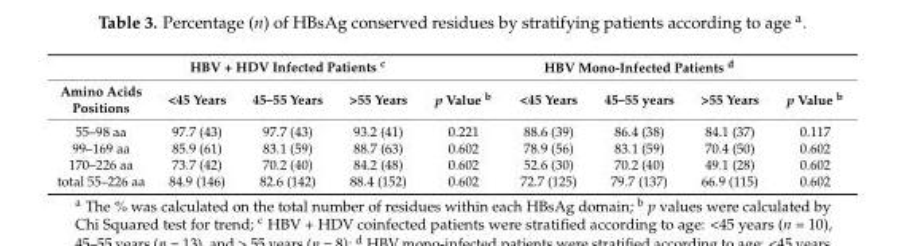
<table><thead><tr><td rowspan="2">Amino Acids Positions</td><td colspan="3">HBV + HDV Infected Patients <sup>c</sup></td><td rowspan="2">p Value <sup>b</sup></td><td colspan="3">HBV Mono-Infected Patients <sup>d</sup></td><td rowspan="2">p Value <sup>b</sup></td></tr><tr><td>&lt;45 Years</td><td>45–55 Years</td><td>&gt;55 Years</td><td>&lt;45 Years</td><td>45–55 years</td><td>&gt;55 Years</td></tr></thead><tbody><tr><td>55–98 aa</td><td>97.7 (43)</td><td>97.7 (43)</td><td>93.2 (41)</td><td>0.221</td><td>88.6 (39)</td><td>86.4 (38)</td><td>84.1 (37)</td><td>0.117</td></tr><tr><td>99–169 aa</td><td>85.9 (61)</td><td>83.1 (59)</td><td>88.7 (63)</td><td>0.602</td><td>78.9 (56)</td><td>83.1 (59)</td><td>70.4 (50)</td><td>0.602</td></tr><tr><td>170–226 aa</td><td>73.7 (42)</td><td>70.2 (40)</td><td>84.2 (48)</td><td>0.602</td><td>52.6 (30)</td><td>70.2 (40)</td><td>49.1 (28)</td><td>0.602</td></tr><tr><td>total 55–226 aa</td><td>84.9 (146)</td><td>82.6 (142)</td><td>88.4 (152)</td><td>0.602</td><td>72.7 (125)</td><td>79.7 (137)</td><td>66.9 (115)</td><td>0.602</td></tr></tbody></table>